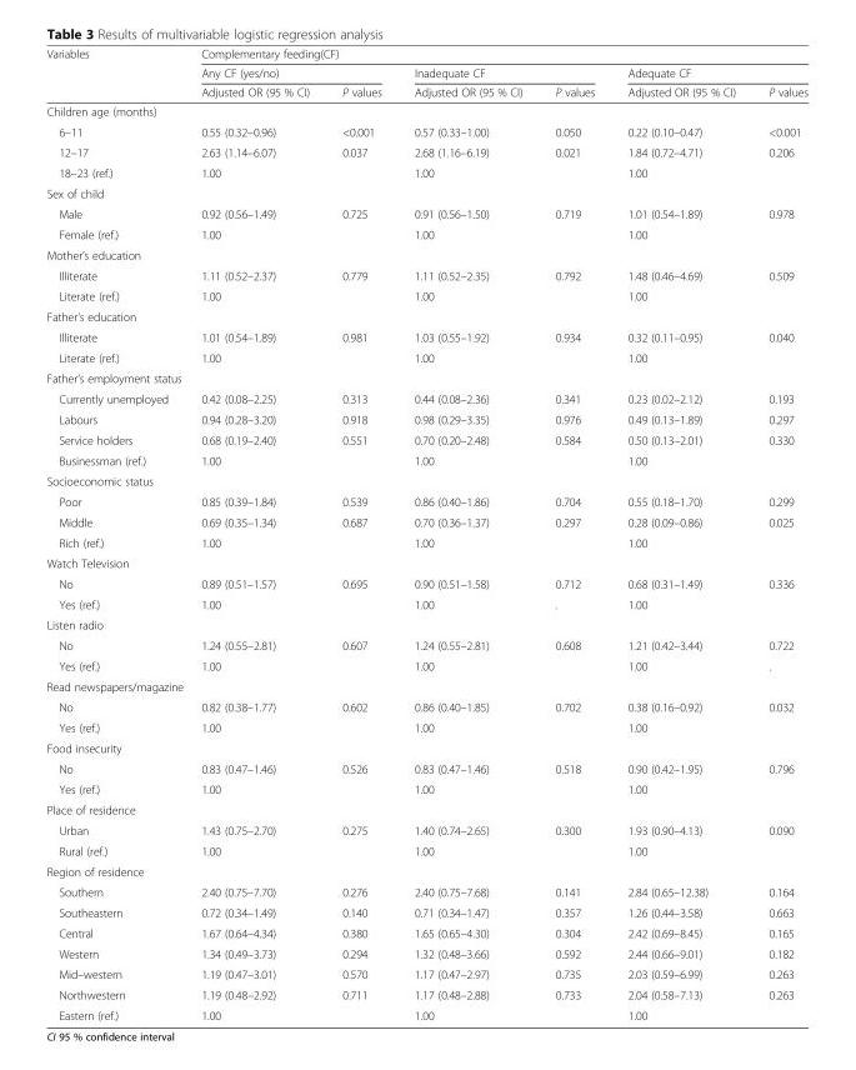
<table><thead><tr><td rowspan="3">Variables</td><td colspan="6">Complementary feeding(CF)</td></tr><tr><td colspan="2">Any CF (yes/no)</td><td colspan="2">Inadequate CF</td><td colspan="2">Adequate CF</td></tr><tr><td>Adjusted OR (95 % CI)</td><td>P values</td><td>Adjusted OR (95 % CI)</td><td>P values</td><td>Adjusted OR (95 % CI)</td><td>P values</td></tr></thead><tbody><tr><td colspan="7">Children age (months)</td></tr><tr><td>6–11</td><td>0.55 (0.32–0.96)</td><td>&lt;0.001</td><td>0.57 (0.33–1.00)</td><td>0.050</td><td>0.22 (0.10–0.47)</td><td>&lt;0.001</td></tr><tr><td>12–17</td><td>2.63 (1.14–6.07)</td><td>0.037</td><td>2.68 (1.16–6.19)</td><td>0.021</td><td>1.84 (0.72–4.71)</td><td>0.206</td></tr><tr><td>18–23 (ref.)</td><td>1.00</td><td></td><td>1.00</td><td></td><td>1.00</td><td></td></tr><tr><td colspan="7">Sex of child</td></tr><tr><td>Male</td><td>0.92 (0.56–1.49)</td><td>0.725</td><td>0.91 (0.56–1.50)</td><td>0.719</td><td>1.01 (0.54–1.89)</td><td>0.978</td></tr><tr><td>Female (ref.)</td><td>1.00</td><td></td><td>1.00</td><td></td><td>1.00</td><td></td></tr><tr><td colspan="7">Mother’s education</td></tr><tr><td>Illiterate</td><td>1.11 (0.52–2.37)</td><td>0.779</td><td>1.11 (0.52–2.35)</td><td>0.792</td><td>1.48 (0.46–4.69)</td><td>0.509</td></tr><tr><td>Literate (ref.)</td><td>1.00</td><td></td><td>1.00</td><td></td><td>1.00</td><td></td></tr><tr><td colspan="7">Father’s education</td></tr><tr><td>Illiterate</td><td>1.01 (0.54–1.89)</td><td>0.981</td><td>1.03 (0.55–1.92)</td><td>0.934</td><td>0.32 (0.11–0.95)</td><td>0.040</td></tr><tr><td>Literate (ref.)</td><td>1.00</td><td></td><td>1.00</td><td></td><td>1.00</td><td></td></tr><tr><td colspan="7">Father’s employment status</td></tr><tr><td>Currently unemployed</td><td>0.42 (0.08–2.25)</td><td>0.313</td><td>0.44 (0.08–2.36)</td><td>0.341</td><td>0.23 (0.02–2.12)</td><td>0.193</td></tr><tr><td>Labours</td><td>0.94 (0.28–3.20)</td><td>0.918</td><td>0.98 (0.29–3.35)</td><td>0.976</td><td>0.49 (0.13–1.89)</td><td>0.297</td></tr><tr><td>Service holders</td><td>0.68 (0.19–2.40)</td><td>0.551</td><td>0.70 (0.20–2.48)</td><td>0.584</td><td>0.50 (0.13–2.01)</td><td>0.330</td></tr><tr><td>Businessman (ref.)</td><td>1.00</td><td></td><td>1.00</td><td></td><td>1.00</td><td></td></tr><tr><td colspan="7">Socioeconomic status</td></tr><tr><td>Poor</td><td>0.85 (0.39–1.84)</td><td>0.539</td><td>0.86 (0.40–1.86)</td><td>0.704</td><td>0.55 (0.18–1.70)</td><td>0.299</td></tr><tr><td>Middle</td><td>0.69 (0.35–1.34)</td><td>0.687</td><td>0.70 (0.36–1.37)</td><td>0.297</td><td>0.28 (0.09–0.86)</td><td>0.025</td></tr><tr><td>Rich (ref.)</td><td>1.00</td><td></td><td>1.00</td><td></td><td>1.00</td><td></td></tr><tr><td colspan="7">Watch Television</td></tr><tr><td>No</td><td>0.89 (0.51–1.57)</td><td>0.695</td><td>0.90 (0.51–1.58)</td><td>0.712</td><td>0.68 (0.31–1.49)</td><td>0.336</td></tr><tr><td>Yes (ref.)</td><td>1.00</td><td></td><td>1.00</td><td>.</td><td>1.00</td><td></td></tr><tr><td colspan="7">Listen radio</td></tr><tr><td>No</td><td>1.24 (0.55–2.81)</td><td>0.607</td><td>1.24 (0.55–2.81)</td><td>0.608</td><td>1.21 (0.42–3.44)</td><td>0.722</td></tr><tr><td>Yes (ref.)</td><td>1.00</td><td></td><td>1.00</td><td></td><td>1.00</td><td>.</td></tr><tr><td colspan="7">Read newspapers/magazine</td></tr><tr><td>No</td><td>0.82 (0.38–1.77)</td><td>0.602</td><td>0.86 (0.40–1.85)</td><td>0.702</td><td>0.38 (0.16–0.92)</td><td>0.032</td></tr><tr><td>Yes (ref.)</td><td>1.00</td><td></td><td>1.00</td><td></td><td>1.00</td><td></td></tr><tr><td colspan="7">Food insecurity</td></tr><tr><td>No</td><td>0.83 (0.47–1.46)</td><td>0.526</td><td>0.83 (0.47–1.46)</td><td>0.518</td><td>0.90 (0.42–1.95)</td><td>0.796</td></tr><tr><td>Yes (ref.)</td><td>1.00</td><td></td><td>1.00</td><td></td><td>1.00</td><td></td></tr><tr><td colspan="7">Place of residence</td></tr><tr><td>Urban</td><td>1.43 (0.75–2.70)</td><td>0.275</td><td>1.40 (0.74–2.65)</td><td>0.300</td><td>1.93 (0.90–4.13)</td><td>0.090</td></tr><tr><td>Rural (ref.)</td><td>1.00</td><td></td><td>1.00</td><td></td><td>1.00</td><td></td></tr><tr><td colspan="7">Region of residence</td></tr><tr><td>Southern</td><td>2.40 (0.75–7.70)</td><td>0.276</td><td>2.40 (0.75–7.68)</td><td>0.141</td><td>2.84 (0.65–12.38)</td><td>0.164</td></tr><tr><td>Southeastern</td><td>0.72 (0.34–1.49)</td><td>0.140</td><td>0.71 (0.34–1.47)</td><td>0.357</td><td>1.26 (0.44–3.58)</td><td>0.663</td></tr><tr><td>Central</td><td>1.67 (0.64–4.34)</td><td>0.380</td><td>1.65 (0.65–4.30)</td><td>0.304</td><td>2.42 (0.69–8.45)</td><td>0.165</td></tr><tr><td>Western</td><td>1.34 (0.49–3.73)</td><td>0.294</td><td>1.32 (0.48–3.66)</td><td>0.592</td><td>2.44 (0.66–9.01)</td><td>0.182</td></tr><tr><td>Mid–western</td><td>1.19 (0.47–3.01)</td><td>0.570</td><td>1.17 (0.47–2.97)</td><td>0.735</td><td>2.03 (0.59–6.99)</td><td>0.263</td></tr><tr><td>Northwestern</td><td>1.19 (0.48–2.92)</td><td>0.711</td><td>1.17 (0.48–2.88)</td><td>0.733</td><td>2.04 (0.58–7.13)</td><td>0.263</td></tr><tr><td>Eastern (ref.)</td><td>1.00</td><td></td><td>1.00</td><td></td><td>1.00</td><td></td></tr></tbody></table>